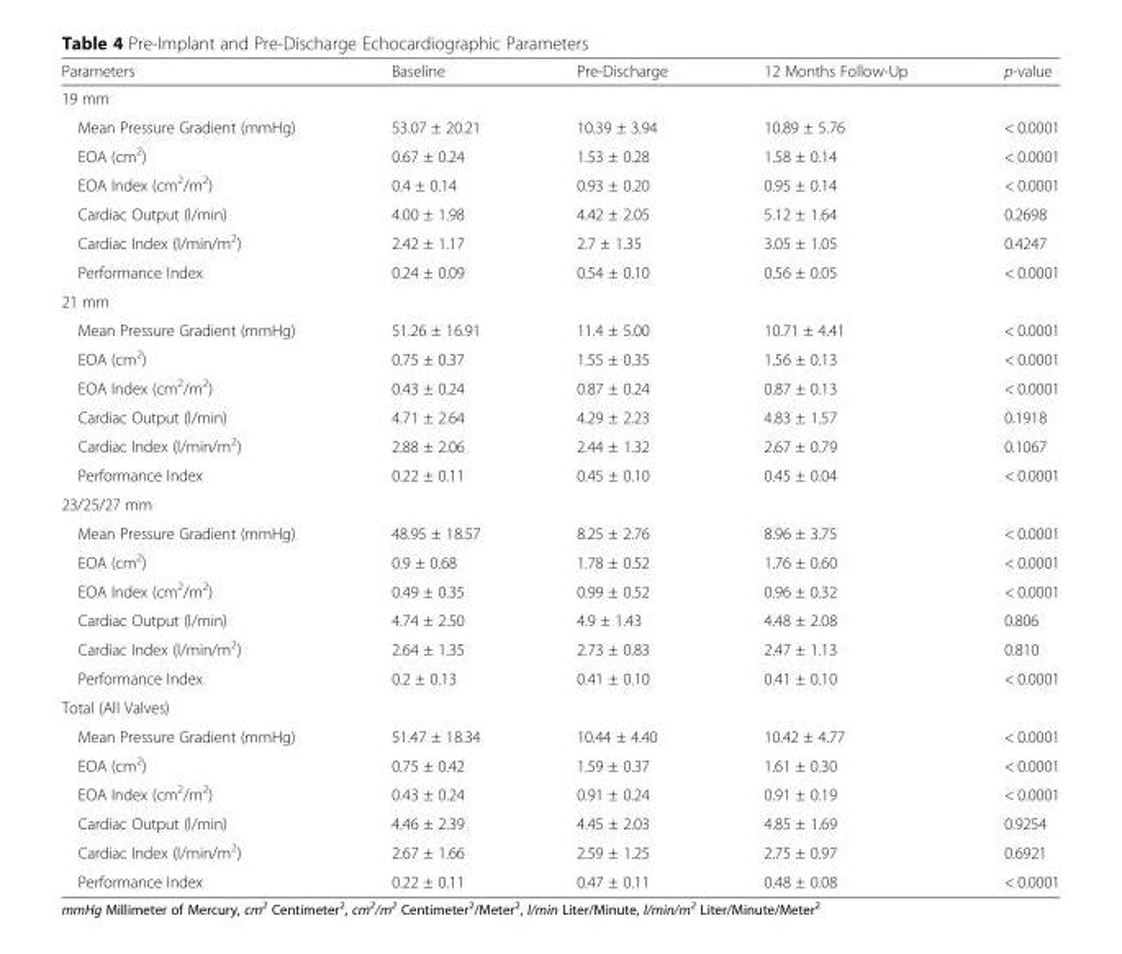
<table><thead><tr><td>Parameters</td><td>Baseline</td><td>Pre-Discharge</td><td>12 Months Follow-Up</td><td>p-value</td></tr></thead><tbody><tr><td colspan="5">19 mm</td></tr><tr><td>Mean Pressure Gradient (mmHg)</td><td>53.07 ± 20.21</td><td>10.39 ± 3.94</td><td>10.89 ± 5.76</td><td>&lt; 0.0001</td></tr><tr><td>EOA (cm<sup>2</sup>)</td><td>0.67 ± 0.24</td><td>1.53 ± 0.28</td><td>1.58 ± 0.14</td><td>&lt; 0.0001</td></tr><tr><td>EOA Index (cm<sup>2</sup>/m<sup>2</sup>)</td><td>0.4 ± 0.14</td><td>0.93 ± 0.20</td><td>0.95 ± 0.14</td><td>&lt; 0.0001</td></tr><tr><td>Cardiac Output (l/min)</td><td>4.00 ± 1.98</td><td>4.42 ± 2.05</td><td>5.12 ± 1.64</td><td>0.2698</td></tr><tr><td>Cardiac Index (l/min/m<sup>2</sup>)</td><td>2.42 ± 1.17</td><td>2.7 ± 1.35</td><td>3.05 ± 1.05</td><td>0.4247</td></tr><tr><td>Performance Index</td><td>0.24 ± 0.09</td><td>0.54 ± 0.10</td><td>0.56 ± 0.05</td><td>&lt; 0.0001</td></tr><tr><td colspan="5">21 mm</td></tr><tr><td>Mean Pressure Gradient (mmHg)</td><td>51.26 ± 16.91</td><td>11.4 ± 5.00</td><td>10.71 ± 4.41</td><td>&lt; 0.0001</td></tr><tr><td>EOA (cm<sup>2</sup>)</td><td>0.75 ± 0.37</td><td>1.55 ± 0.35</td><td>1.56 ± 0.13</td><td>&lt; 0.0001</td></tr><tr><td>EOA Index (cm<sup>2</sup>/m<sup>2</sup>)</td><td>0.43 ± 0.24</td><td>0.87 ± 0.24</td><td>0.87 ± 0.13</td><td>&lt; 0.0001</td></tr><tr><td>Cardiac Output (l/min)</td><td>4.71 ± 2.64</td><td>4.29 ± 2.23</td><td>4.83 ± 1.57</td><td>0.1918</td></tr><tr><td>Cardiac Index (l/min/m<sup>2</sup>)</td><td>2.88 ± 2.06</td><td>2.44 ± 1.32</td><td>2.67 ± 0.79</td><td>0.1067</td></tr><tr><td>Performance Index</td><td>0.22 ± 0.11</td><td>0.45 ± 0.10</td><td>0.45 ± 0.04</td><td>&lt; 0.0001</td></tr><tr><td colspan="5">23/25/27 mm</td></tr><tr><td>Mean Pressure Gradient (mmHg)</td><td>48.95 ± 18.57</td><td>8.25 ± 2.76</td><td>8.96 ± 3.75</td><td>&lt; 0.0001</td></tr><tr><td>EOA (cm<sup>2</sup>)</td><td>0.9 ± 0.68</td><td>1.78 ± 0.52</td><td>1.76 ± 0.60</td><td>&lt; 0.0001</td></tr><tr><td>EOA Index (cm<sup>2</sup>/m<sup>2</sup>)</td><td>0.49 ± 0.35</td><td>0.99 ± 0.52</td><td>0.96 ± 0.32</td><td>&lt; 0.0001</td></tr><tr><td>Cardiac Output (l/min)</td><td>4.74 ± 2.50</td><td>4.9 ± 1.43</td><td>4.48 ± 2.08</td><td>0.806</td></tr><tr><td>Cardiac Index (l/min/m<sup>2</sup>)</td><td>2.64 ± 1.35</td><td>2.73 ± 0.83</td><td>2.47 ± 1.13</td><td>0.810</td></tr><tr><td>Performance Index</td><td>0.2 ± 0.13</td><td>0.41 ± 0.10</td><td>0.41 ± 0.10</td><td>&lt; 0.0001</td></tr><tr><td colspan="5">Total (All Valves)</td></tr><tr><td>Mean Pressure Gradient (mmHg)</td><td>51.47 ± 18.34</td><td>10.44 ± 4.40</td><td>10.42 ± 4.77</td><td>&lt; 0.0001</td></tr><tr><td>EOA (cm<sup>2</sup>)</td><td>0.75 ± 0.42</td><td>1.59 ± 0.37</td><td>1.61 ± 0.30</td><td>&lt; 0.0001</td></tr><tr><td>EOA Index (cm<sup>2</sup>/m<sup>2</sup>)</td><td>0.43 ± 0.24</td><td>0.91 ± 0.24</td><td>0.91 ± 0.19</td><td>&lt; 0.0001</td></tr><tr><td>Cardiac Output (l/min)</td><td>4.46 ± 2.39</td><td>4.45 ± 2.03</td><td>4.85 ± 1.69</td><td>0.9254</td></tr><tr><td>Cardiac Index (l/min/m<sup>2</sup>)</td><td>2.67 ± 1.66</td><td>2.59 ± 1.25</td><td>2.75 ± 0.97</td><td>0.6921</td></tr><tr><td>Performance Index</td><td>0.22 ± 0.11</td><td>0.47 ± 0.11</td><td>0.48 ± 0.08</td><td>&lt; 0.0001</td></tr></tbody></table>